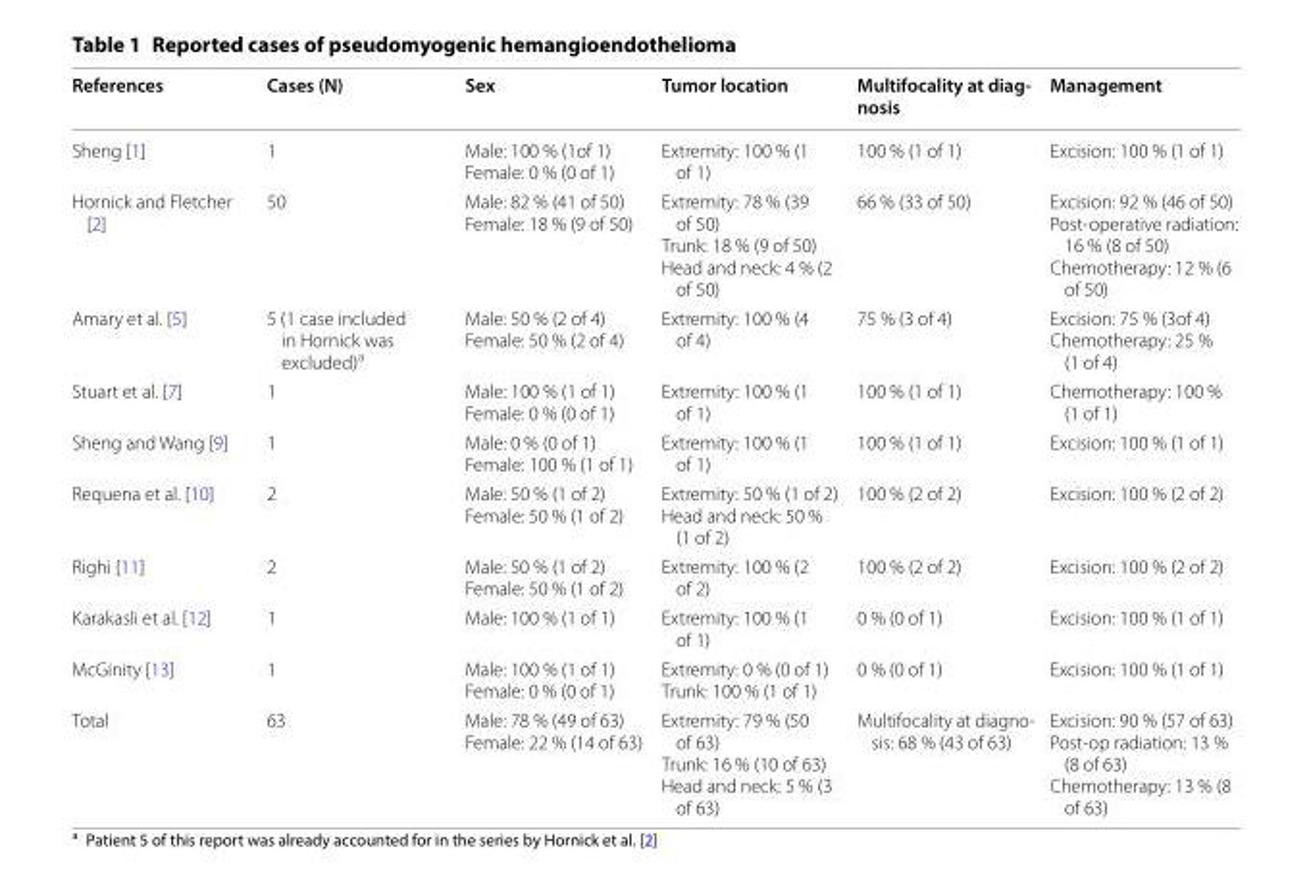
<table><thead><tr><td>References</td><td>Cases (N)</td><td>Sex</td><td>Tumor location</td><td>Multifocality at diag- nosis</td><td>Management</td></tr></thead><tbody><tr><td>Sheng [1]</td><td>1</td><td>Male: 100 % (1of 1) Female: 0 % (0 of 1)</td><td>Extremity: 100 % (1 of 1)</td><td>100 % (1 of 1)</td><td>Excision: 100 % (1 of 1)</td></tr><tr><td>Hornick and Fletcher [2]</td><td>50</td><td>Male: 82 % (41 of 50) Female: 18 % (9 of 50)</td><td>Extremity: 78 % (39 of 50) Trunk: 18 % (9 of 50) Head and neck: 4 % (2 of 50)</td><td>66 % (33 of 50)</td><td>Excision: 92 % (46 of 50) Post‑operative radiation: 16 % (8 of 50) Chemotherapy: 12 % (6 of 50)</td></tr><tr><td>Amary et al. [5]</td><td>5 (1 case included in Hornick was excluded)<sup>a</sup></td><td>Male: 50 % (2 of 4) Female: 50 % (2 of 4)</td><td>Extremity: 100 % (4 of 4)</td><td>75 % (3 of 4)</td><td>Excision: 75 % (3of 4) Chemotherapy: 25 % (1 of 4)</td></tr><tr><td>Stuart et al. [7]</td><td>1</td><td>Male: 100 % (1 of 1) Female: 0 % (0 of 1)</td><td>Extremity: 100 % (1 of 1)</td><td>100 % (1 of 1)</td><td>Chemotherapy: 100 % (1 of 1)</td></tr><tr><td>Sheng and Wang [9]</td><td>1</td><td>Male: 0 % (0 of 1) Female: 100 % (1 of 1)</td><td>Extremity: 100 % (1 of 1)</td><td>100 % (1 of 1)</td><td>Excision: 100 % (1 of 1)</td></tr><tr><td>Requena et al. [10]</td><td>2</td><td>Male: 50 % (1 of 2) Female: 50 % (1 of 2)</td><td>Extremity: 50 % (1 of 2) Head and neck: 50 % (1 of 2)</td><td>100 % (2 of 2)</td><td>Excision: 100 % (2 of 2)</td></tr><tr><td>Righi [11]</td><td>2</td><td>Male: 50 % (1 of 2) Female: 50 % (1 of 2)</td><td>Extremity: 100 % (2 of 2)</td><td>100 % (2 of 2)</td><td>Excision: 100 % (2 of 2)</td></tr><tr><td>Karakasli et al. [12]</td><td>1</td><td>Male: 100 % (1 of 1)</td><td>Extremity: 100 % (1 of 1)</td><td>0 % (0 of 1)</td><td>Excision: 100 % (1 of 1)</td></tr><tr><td>McGinity [13]</td><td>1</td><td>Male: 100 % (1 of 1) Female: 0 % (0 of 1)</td><td>Extremity: 0 % (0 of 1) Trunk: 100 % (1 of 1)</td><td>0 % (0 of 1)</td><td>Excision: 100 % (1 of 1)</td></tr><tr><td>Total</td><td>63</td><td>Male: 78 % (49 of 63) Female: 22 % (14 of 63)</td><td>Extremity: 79 % (50 of 63) Trunk: 16 % (10 of 63) Head and neck: 5 % (3 of 63)</td><td>Multifocality at diagno‑ sis: 68 % (43 of 63)</td><td>Excision: 90 % (57 of 63) Post‑op radiation: 13 % (8 of 63) Chemotherapy: 13 % (8 of 63)</td></tr></tbody></table>